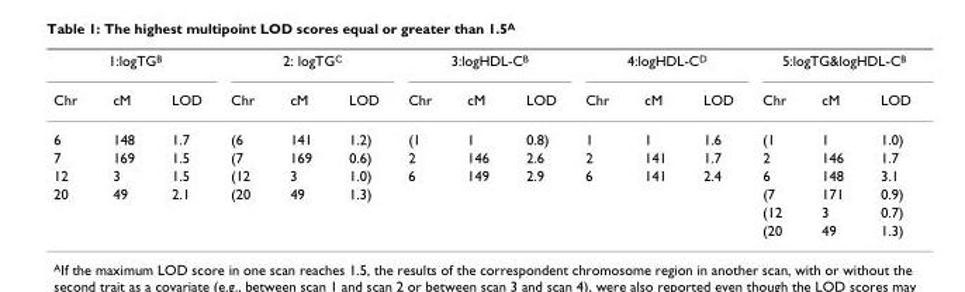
<table><thead><tr><td colspan="3">1:logTGB</td><td colspan="3">2: logTGC</td><td colspan="3">3:logHDL-CB</td><td colspan="3">4:logHDL-CD</td><td colspan="3">5:logTG&amp;logHDL-CB</td></tr><tr><td>Chr</td><td>cM</td><td>LOD</td><td>Chr</td><td>cM</td><td>LOD</td><td>Chr</td><td>cM</td><td>LOD</td><td>Chr</td><td>cM</td><td>LOD</td><td>Chr</td><td>cM</td><td>LOD</td></tr></thead><tbody><tr><td>6</td><td>148</td><td>1.7</td><td>(6</td><td>141</td><td>1.2)</td><td>(1</td><td>1</td><td>0.8)</td><td>1</td><td>1</td><td>1.6</td><td>(1</td><td>1</td><td>1.0)</td></tr><tr><td>7</td><td>169</td><td>1.5</td><td>(7</td><td>169</td><td>0.6)</td><td>2</td><td>146</td><td>2.6</td><td>2</td><td>141</td><td>1.7</td><td>2</td><td>146</td><td>1.7</td></tr><tr><td>12</td><td>3</td><td>1.5</td><td>(12</td><td>3</td><td>1.0)</td><td>6</td><td>149</td><td>2.9</td><td>6</td><td>141</td><td>2.4</td><td>6</td><td>148</td><td>3.1</td></tr><tr><td rowspan="3">20</td><td>49</td><td>2.1</td><td>(20</td><td>49</td><td>1.3)</td><td></td><td></td><td></td><td></td><td></td><td></td><td>(7</td><td>171</td><td>0.9)</td></tr><tr><td></td><td></td><td></td><td></td><td></td><td></td><td></td><td></td><td></td><td></td><td></td><td>(12</td><td>3</td><td>0.7)</td></tr><tr><td></td><td></td><td></td><td></td><td></td><td></td><td></td><td></td><td></td><td></td><td></td><td>(20</td><td>49</td><td>1.3)</td></tr></tbody></table>